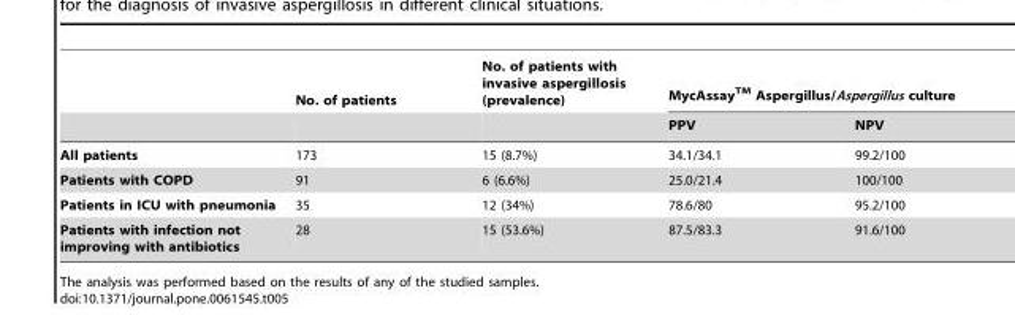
<table><thead><tr><td rowspan="2"></td><td rowspan="2">No. of patients</td><td rowspan="2">No. of patients with invasive aspergillosis (prevalence)</td><td colspan="2">MycAssayTM Aspergillus/Aspergillus culture</td></tr><tr><td>PPV</td><td>NPV</td></tr></thead><tbody><tr><td>All patients</td><td>173</td><td>15 (8.7%)</td><td>34.1/34.1</td><td>99.2/100</td></tr><tr><td>Patients with COPD</td><td>91</td><td>6 (6.6%)</td><td>25.0/21.4</td><td>100/100</td></tr><tr><td>Patients in ICU with pneumonia</td><td>35</td><td>12 (34%)</td><td>78.6/80</td><td>95.2/100</td></tr><tr><td>Patients with infection not improving with antibiotics</td><td>28</td><td>15 (53.6%)</td><td>87.5/83.3</td><td>91.6/100</td></tr></tbody></table>